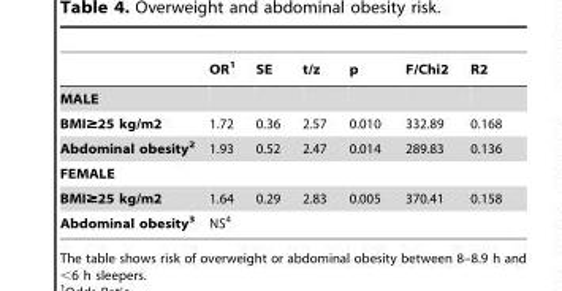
<table><thead><tr><td></td><td>OR<sup>1</sup></td><td>SE</td><td>t/z</td><td>p</td><td>F/Chi2</td><td>R2</td></tr></thead><tbody><tr><td colspan="7">MALE</td></tr><tr><td>BMI≥25 kg/m2</td><td>1.72</td><td>0.36</td><td>2.57</td><td>0.010</td><td>332.89</td><td>0.168</td></tr><tr><td>Abdominal obesity2</td><td>1.93</td><td>0.52</td><td>2.47</td><td>0.014</td><td>289.83</td><td>0.136</td></tr><tr><td colspan="7">FEMALE</td></tr><tr><td>BMI≥25 kg/m2</td><td>1.64</td><td>0.29</td><td>2.83</td><td>0.005</td><td>370.41</td><td>0.158</td></tr><tr><td>Abdominal obesity3</td><td>NS<sup>4</sup></td><td></td><td></td><td></td><td></td><td></td></tr></tbody></table>